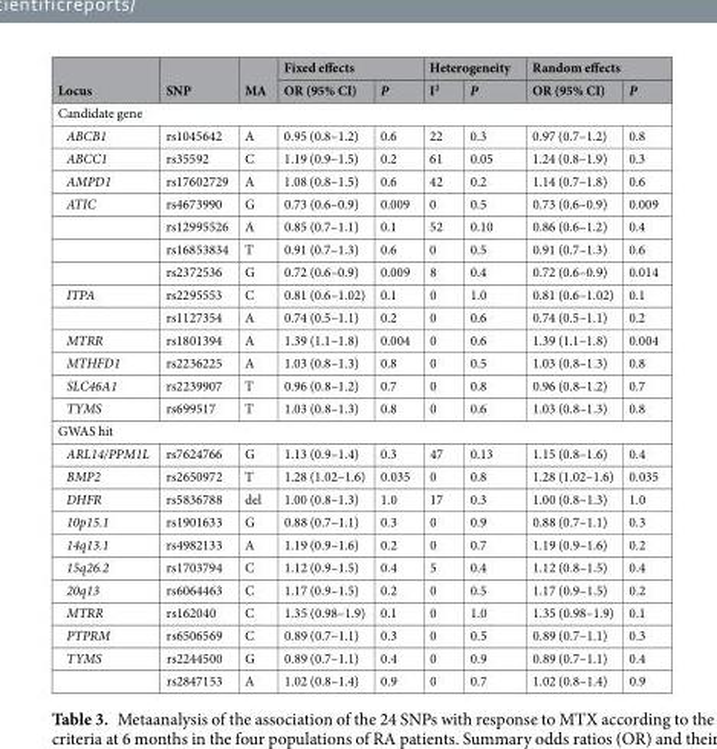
<table><thead><tr><td rowspan="2">Locus</td><td rowspan="2">SNP</td><td rowspan="2">MA</td><td colspan="2">Fixed effects</td><td colspan="2">Heterogeneity</td><td colspan="2">Random effects</td></tr><tr><td>OR (95% CI)</td><td>P</td><td>I<sup>2</sup></td><td>P</td><td>OR (95% CI)</td><td>P</td></tr></thead><tbody><tr><td colspan="9">Candidate gene</td></tr><tr><td>ABCB1</td><td>rs1045642</td><td>A</td><td>0.95 (0.8–1.2)</td><td>0.6</td><td>22</td><td>0.3</td><td>0.97 (0.7–1.2)</td><td>0.8</td></tr><tr><td>ABCC1</td><td>rs35592</td><td>C</td><td>1.19 (0.9–1.5)</td><td>0.2</td><td>61</td><td>0.05</td><td>1.24 (0.8–1.9)</td><td>0.3</td></tr><tr><td>AMPD1</td><td>rs17602729</td><td>A</td><td>1.08 (0.8–1.5)</td><td>0.6</td><td>42</td><td>0.2</td><td>1.14 (0.7–1.8)</td><td>0.6</td></tr><tr><td rowspan="4">ATIC</td><td>rs4673990</td><td>G</td><td>0.73 (0.6–0.9)</td><td>0.009</td><td>0</td><td>0.5</td><td>0.73 (0.6–0.9)</td><td>0.009</td></tr><tr><td>rs12995526</td><td>A</td><td>0.85 (0.7–1.1)</td><td>0.1</td><td>52</td><td>0.10</td><td>0.86 (0.6–1.2)</td><td>0.4</td></tr><tr><td>rs16853834</td><td>T</td><td>0.91 (0.7–1.3)</td><td>0.6</td><td>0</td><td>0.5</td><td>0.91 (0.7–1.3)</td><td>0.6</td></tr><tr><td>rs2372536</td><td>G</td><td>0.72 (0.6–0.9)</td><td>0.009</td><td>8</td><td>0.4</td><td>0.72 (0.6–0.9)</td><td>0.014</td></tr><tr><td rowspan="2">ITPA</td><td>rs2295553</td><td>C</td><td>0.81 (0.6–1.02)</td><td>0.1</td><td>0</td><td>1.0</td><td>0.81 (0.6–1.02)</td><td>0.1</td></tr><tr><td>rs1127354</td><td>A</td><td>0.74 (0.5–1.1)</td><td>0.2</td><td>0</td><td>0.6</td><td>0.74 (0.5–1.1)</td><td>0.2</td></tr><tr><td>MTRR</td><td>rs1801394</td><td>A</td><td>1.39 (1.1–1.8)</td><td>0.004</td><td>0</td><td>0.6</td><td>1.39 (1.1–1.8)</td><td>0.004</td></tr><tr><td>MTHFD1</td><td>rs2236225</td><td>A</td><td>1.03 (0.8–1.3)</td><td>0.8</td><td>0</td><td>0.5</td><td>1.03 (0.8–1.3)</td><td>0.8</td></tr><tr><td>SLC46A1</td><td>rs2239907</td><td>T</td><td>0.96 (0.8–1.2)</td><td>0.7</td><td>0</td><td>0.8</td><td>0.96 (0.8–1.2)</td><td>0.7</td></tr><tr><td>TYMS</td><td>rs699517</td><td>T</td><td>1.03 (0.8–1.3)</td><td>0.8</td><td>0</td><td>0.6</td><td>1.03 (0.8–1.3)</td><td>0.8</td></tr><tr><td colspan="9">GWAS hit</td></tr><tr><td>ARL14/PPM1L</td><td>rs7624766</td><td>G</td><td>1.13 (0.9–1.4)</td><td>0.3</td><td>47</td><td>0.13</td><td>1.15 (0.8–1.6)</td><td>0.4</td></tr><tr><td>BMP2</td><td>rs2650972</td><td>T</td><td>1.28 (1.02–1.6)</td><td>0.035</td><td>0</td><td>0.8</td><td>1.28 (1.02–1.6)</td><td>0.035</td></tr><tr><td>DHFR</td><td>rs5836788</td><td>del</td><td>1.00 (0.8–1.3)</td><td>1.0</td><td>17</td><td>0.3</td><td>1.00 (0.8–1.3)</td><td>1.0</td></tr><tr><td>10p15.1</td><td>rs1901633</td><td>G</td><td>0.88 (0.7–1.1)</td><td>0.3</td><td>0</td><td>0.9</td><td>0.88 (0.7–1.1)</td><td>0.3</td></tr><tr><td>14q13.1</td><td>rs4982133</td><td>A</td><td>1.19 (0.9–1.6)</td><td>0.2</td><td>0</td><td>0.7</td><td>1.19 (0.9–1.6)</td><td>0.2</td></tr><tr><td>15q26.2</td><td>rs1703794</td><td>C</td><td>1.12 (0.9–1.5)</td><td>0.4</td><td>5</td><td>0.4</td><td>1.12 (0.8–1.5)</td><td>0.4</td></tr><tr><td>20q13</td><td>rs6064463</td><td>C</td><td>1.17 (0.9–1.5)</td><td>0.2</td><td>0</td><td>0.5</td><td>1.17 (0.9–1.5)</td><td>0.2</td></tr><tr><td>MTRR</td><td>rs162040</td><td>C</td><td>1.35 (0.98–1.9)</td><td>0.1</td><td>0</td><td>1.0</td><td>1.35 (0.98–1.9)</td><td>0.1</td></tr><tr><td>PTPRM</td><td>rs6506569</td><td>C</td><td>0.89 (0.7–1.1)</td><td>0.3</td><td>0</td><td>0.5</td><td>0.89 (0.7–1.1)</td><td>0.3</td></tr><tr><td rowspan="2">TYMS</td><td>rs2244500</td><td>G</td><td>0.89 (0.7–1.1)</td><td>0.4</td><td>0</td><td>0.9</td><td>0.89 (0.7–1.1)</td><td>0.4</td></tr><tr><td>rs2847153</td><td>A</td><td>1.02 (0.8–1.4)</td><td>0.9</td><td>0</td><td>0.7</td><td>1.02 (0.8–1.4)</td><td>0.9</td></tr></tbody></table>